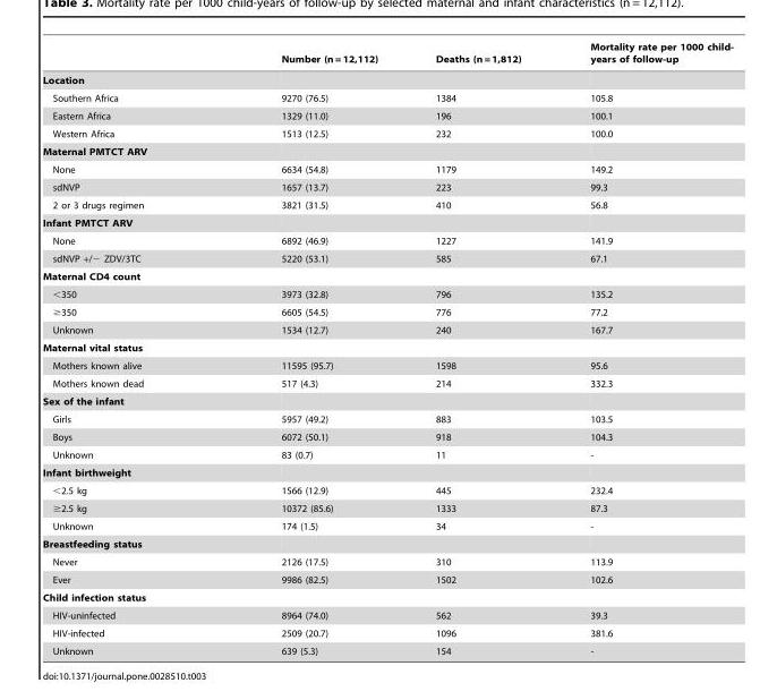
<table><thead><tr><td></td><td>Number (n = 12,112)</td><td>Deaths (n = 1,812)</td><td>Mortality rate per 1000 child- years of follow-up</td></tr></thead><tbody><tr><td colspan="4">Location</td></tr><tr><td>Southern Africa</td><td>9270 (76.5)</td><td>1384</td><td>105.8</td></tr><tr><td>Eastern Africa</td><td>1329 (11.0)</td><td>196</td><td>100.1</td></tr><tr><td>Western Africa</td><td>1513 (12.5)</td><td>232</td><td>100.0</td></tr><tr><td colspan="4">Maternal PMTCT ARV</td></tr><tr><td>None</td><td>6634 (54.8)</td><td>1179</td><td>149.2</td></tr><tr><td>sdNVP</td><td>1657 (13.7)</td><td>223</td><td>99.3</td></tr><tr><td>2 or 3 drugs regimen</td><td>3821 (31.5)</td><td>410</td><td>56.8</td></tr><tr><td colspan="4">Infant PMTCT ARV</td></tr><tr><td>None</td><td>6892 (46.9)</td><td>1227</td><td>141.9</td></tr><tr><td>sdNVP +/− ZDV/3TC</td><td>5220 (53.1)</td><td>585</td><td>67.1</td></tr><tr><td colspan="4">Maternal CD4 count</td></tr><tr><td>&lt;350</td><td>3973 (32.8)</td><td>796</td><td>135.2</td></tr><tr><td>≥350</td><td>6605 (54.5)</td><td>776</td><td>77.2</td></tr><tr><td>Unknown</td><td>1534 (12.7)</td><td>240</td><td>167.7</td></tr><tr><td colspan="4">Maternal vital status</td></tr><tr><td>Mothers known alive</td><td>11595 (95.7)</td><td>1598</td><td>95.6</td></tr><tr><td>Mothers known dead</td><td>517 (4.3)</td><td>214</td><td>332.3</td></tr><tr><td colspan="4">Sex of the infant</td></tr><tr><td>Girls</td><td>5957 (49.2)</td><td>883</td><td>103.5</td></tr><tr><td>Boys</td><td>6072 (50.1)</td><td>918</td><td>104.3</td></tr><tr><td>Unknown</td><td>83 (0.7)</td><td>11</td><td>-</td></tr><tr><td colspan="4">Infant birthweight</td></tr><tr><td>&lt;2.5 kg</td><td>1566 (12.9)</td><td>445</td><td>232.4</td></tr><tr><td>≥2.5 kg</td><td>10372 (85.6)</td><td>1333</td><td>87.3</td></tr><tr><td>Unknown</td><td>174 (1.5)</td><td>34</td><td>-</td></tr><tr><td colspan="4">Breastfeeding status</td></tr><tr><td>Never</td><td>2126 (17.5)</td><td>310</td><td>113.9</td></tr><tr><td>Ever</td><td>9986 (82.5)</td><td>1502</td><td>102.6</td></tr><tr><td colspan="4">Child infection status</td></tr><tr><td>HIV-uninfected</td><td>8964 (74.0)</td><td>562</td><td>39.3</td></tr><tr><td>HIV-infected</td><td>2509 (20.7)</td><td>1096</td><td>381.6</td></tr><tr><td>Unknown</td><td>639 (5.3)</td><td>154</td><td>-</td></tr></tbody></table>